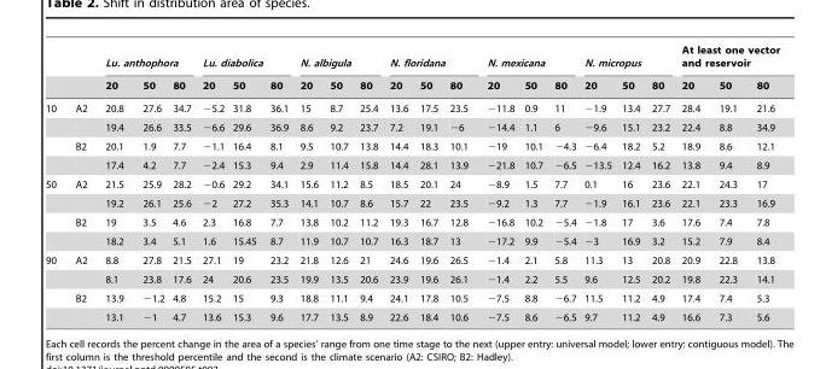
<table><thead><tr><td rowspan="2"></td><td rowspan="2"></td><td colspan="3">Lu. anthophora</td><td colspan="3">Lu. diabolica</td><td colspan="3">N. albigula</td><td colspan="3">N. floridana</td><td colspan="3">N. mexicana</td><td colspan="3">N. micropus</td><td colspan="3">At least one vector and reservoir</td></tr><tr><td>20</td><td>50</td><td>80</td><td>20</td><td>50</td><td>80</td><td>20</td><td>50</td><td>80</td><td>20</td><td>50</td><td>80</td><td>20</td><td>50</td><td>80</td><td>20</td><td>50</td><td>80</td><td>20</td><td>50</td><td>80</td></tr></thead><tbody><tr><td rowspan="4">10</td><td>A2</td><td>20.8</td><td>27.6</td><td>34.7</td><td>−5.2</td><td>31.8</td><td>36.1</td><td>15</td><td>8.7</td><td>25.4</td><td>13.6</td><td>17.5</td><td>23.5</td><td>−11.8</td><td>0.9</td><td>11</td><td>−1.9</td><td>13.4</td><td>27.7</td><td>28.4</td><td>19.1</td><td>21.6</td></tr><tr><td></td><td>19.4</td><td>26.6</td><td>33.5</td><td>−6.6</td><td>29.6</td><td>36.9</td><td>8.6</td><td>9.2</td><td>23.7</td><td>7.2</td><td>19.1</td><td>−6</td><td>−14.4</td><td>1.1</td><td>6</td><td>−9.6</td><td>15.1</td><td>23.2</td><td>22.4</td><td>8.8</td><td>34.9</td></tr><tr><td>B2</td><td>20.1</td><td>1.9</td><td>7.7</td><td>−1.1</td><td>16.4</td><td>8.1</td><td>9.5</td><td>10.7</td><td>13.8</td><td>14.4</td><td>18.3</td><td>10.1</td><td>−19</td><td>10.1</td><td>−4.3</td><td>−6.4</td><td>18.2</td><td>5.2</td><td>18.9</td><td>8.6</td><td>12.1</td></tr><tr><td></td><td>17.4</td><td>4.2</td><td>7.7</td><td>−2.4</td><td>15.3</td><td>9.4</td><td>2.9</td><td>11.4</td><td>15.8</td><td>14.4</td><td>28.1</td><td>13.9</td><td>−21.8</td><td>10.7</td><td>−6.5</td><td>−13.5</td><td>12.4</td><td>16.2</td><td>13.8</td><td>9.4</td><td>8.9</td></tr><tr><td rowspan="4">50</td><td>A2</td><td>21.5</td><td>25.9</td><td>28.2</td><td>−0.6</td><td>29.2</td><td>34.1</td><td>15.6</td><td>11.2</td><td>8.5</td><td>18.5</td><td>20.1</td><td>24</td><td>−8.9</td><td>1.5</td><td>7.7</td><td>0.1</td><td>16</td><td>23.6</td><td>22.1</td><td>24.3</td><td>17</td></tr><tr><td></td><td>19.2</td><td>26.1</td><td>25.6</td><td>−2</td><td>27.2</td><td>35.3</td><td>14.1</td><td>10.7</td><td>8.6</td><td>15.7</td><td>22</td><td>23.5</td><td>−9.2</td><td>1.3</td><td>7.7</td><td>−1.9</td><td>16.1</td><td>23.6</td><td>22.1</td><td>23.3</td><td>16.9</td></tr><tr><td>B2</td><td>19</td><td>3.5</td><td>4.6</td><td>2.3</td><td>16.8</td><td>7.7</td><td>13.8</td><td>10.2</td><td>11.2</td><td>19.3</td><td>16.7</td><td>12.8</td><td>−16.8</td><td>10.2</td><td>−5.4</td><td>−1.8</td><td>17</td><td>3.6</td><td>17.6</td><td>7.4</td><td>7.8</td></tr><tr><td></td><td>18.2</td><td>3.4</td><td>5.1</td><td>1.6</td><td>15.45</td><td>8.7</td><td>11.9</td><td>10.7</td><td>10.7</td><td>16.3</td><td>18.7</td><td>13</td><td>−17.2</td><td>9.9</td><td>−5.4</td><td>−3</td><td>16.9</td><td>3.2</td><td>15.2</td><td>7.9</td><td>8.4</td></tr><tr><td rowspan="4">90</td><td>A2</td><td>8.8</td><td>27.8</td><td>21.5</td><td>27.1</td><td>19</td><td>23.2</td><td>21.8</td><td>12.6</td><td>21</td><td>24.6</td><td>19.6</td><td>26.5</td><td>−1.4</td><td>2.1</td><td>5.8</td><td>11.3</td><td>13</td><td>20.8</td><td>20.9</td><td>22.8</td><td>13.8</td></tr><tr><td></td><td>8.1</td><td>23.8</td><td>17.6</td><td>24</td><td>20.6</td><td>23.5</td><td>19.9</td><td>13.5</td><td>20.6</td><td>23.9</td><td>19.6</td><td>26.1</td><td>−1.4</td><td>2.2</td><td>5.5</td><td>9.6</td><td>12.5</td><td>20.2</td><td>19.8</td><td>22.3</td><td>14.1</td></tr><tr><td>B2</td><td>13.9</td><td>−1.2</td><td>4.8</td><td>15.2</td><td>15</td><td>9.3</td><td>18.8</td><td>11.1</td><td>9.4</td><td>24.1</td><td>17.8</td><td>10.5</td><td>−7.5</td><td>8.8</td><td>−6.7</td><td>11.5</td><td>11.2</td><td>4.9</td><td>17.4</td><td>7.4</td><td>5.3</td></tr><tr><td></td><td>13.1</td><td>−1</td><td>4.7</td><td>13.6</td><td>15.3</td><td>9.6</td><td>17.7</td><td>13.5</td><td>8.9</td><td>22.6</td><td>18.4</td><td>10.6</td><td>−7.5</td><td>8.6</td><td>−6.5</td><td>9.7</td><td>11.2</td><td>4.9</td><td>16.6</td><td>7.3</td><td>5.6</td></tr></tbody></table>